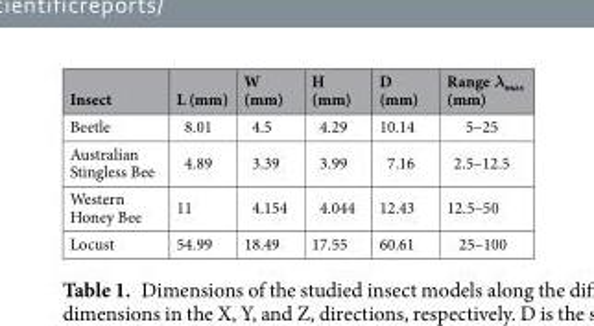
<table><thead><tr><td>Insect</td><td>L (mm)</td><td>W (mm)</td><td>H (mm)</td><td>D (mm)</td><td>Range λ<sub>max</sub> (mm)</td></tr></thead><tbody><tr><td>Beetle</td><td>8.01</td><td>4.5</td><td>4.29</td><td>10.14</td><td>5–25</td></tr><tr><td>Australian Stingless Bee</td><td>4.89</td><td>3.39</td><td>3.99</td><td>7.16</td><td>2.5–12.5</td></tr><tr><td>Western Honey Bee</td><td>11</td><td>4.154</td><td>4.044</td><td>12.43</td><td>12.5–50</td></tr><tr><td>Locust</td><td>54.99</td><td>18.49</td><td>17.55</td><td>60.61</td><td>25–100</td></tr></tbody></table>